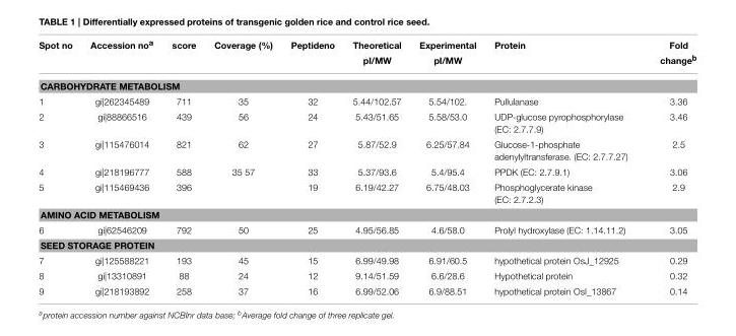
<table><thead><tr><td>Spot no</td><td>Accession no<sup>a</sup></td><td>score</td><td>Coverage (%)</td><td>Peptideno</td><td>Theoretical pI/MW</td><td>Experimental pI/MW</td><td>Protein</td><td>Fold change<sup>b</sup></td></tr></thead><tbody><tr><td colspan="9">CARBOHYDRATE METABOLISM</td></tr><tr><td>1</td><td>gi|262345489</td><td>711</td><td>35</td><td>32</td><td>5.44/102.57</td><td>5.54/102.</td><td>Pullulanase</td><td>3.36</td></tr><tr><td>2</td><td>gi|88866516</td><td>439</td><td>56</td><td>24</td><td>5.43/51.65</td><td>5.58/53.0</td><td>UDP-glucose pyrophosphorylase (EC: 2.7.7.9)</td><td>3.46</td></tr><tr><td>3</td><td>gi|115476014</td><td>821</td><td>62</td><td>27</td><td>5.87/52.9</td><td>6.25/57.84</td><td>Glucose-1-phosphate adenylyltransferase. (EC: 2.7.7.27)</td><td>2.5</td></tr><tr><td>4</td><td>gi|218196777</td><td>588</td><td>35 57</td><td>33</td><td>5.37/93.6</td><td>5.4/95.4</td><td>PPDK (EC: 2.7.9.1)</td><td>3.06</td></tr><tr><td>5</td><td>gi|115469436</td><td>396</td><td></td><td>19</td><td>6.19/42.27</td><td>6.75/48.03</td><td>Phosphoglycerate kinase (EC: 2.7.2.3)</td><td>2.9</td></tr><tr><td colspan="9">AMINO ACID METABOLISM</td></tr><tr><td>6</td><td>gi|62546209</td><td>792</td><td>50</td><td>25</td><td>4.95/56.85</td><td>4.6/58.0</td><td>Prolyl hydroxylase (EC: 1.14.11.2)</td><td>3.05</td></tr><tr><td colspan="9">SEED STORAGE PROTEIN</td></tr><tr><td>7</td><td>gi|125588221</td><td>193</td><td>45</td><td>15</td><td>6.99/49.98</td><td>6.91/60.5</td><td>hypothetical protein OsJ_12925</td><td>0.29</td></tr><tr><td>8</td><td>gi|13310891</td><td>88</td><td>24</td><td>12</td><td>9.14/51.59</td><td>6.6/28.6</td><td>Hypothetical protein</td><td>0.32</td></tr><tr><td>9</td><td>gi|218193892</td><td>258</td><td>37</td><td>16</td><td>6.99/52.06</td><td>6.9/88.51</td><td>hypothetical protein OsI_13867</td><td>0.14</td></tr></tbody></table>